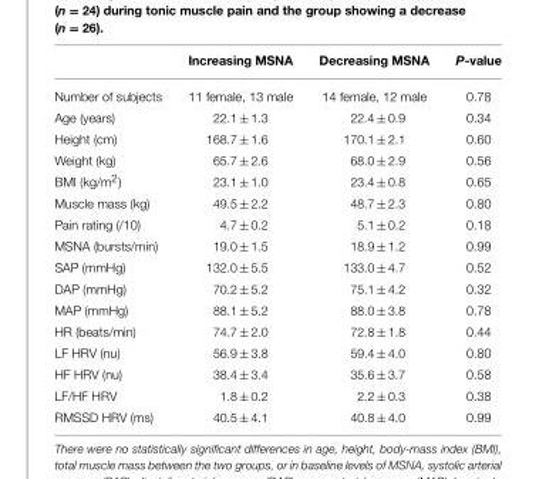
<table><thead><tr><td></td><td>Increasing MSNA</td><td>Decreasing MSNA</td><td>P-value</td></tr></thead><tbody><tr><td>Number of subjects</td><td>11 female± 13 male</td><td>14 female± 12 male</td><td>0.78</td></tr><tr><td>Age (years)</td><td>22.1 ± 1.3</td><td>22.4 ± 0.9</td><td>0.34</td></tr><tr><td>Height (cm)</td><td>168.7 ± 1.6</td><td>170.1 ± 2.1</td><td>0.60</td></tr><tr><td>Weight (kg)</td><td>65.7 ± 2.6</td><td>68.0 ± 2.9</td><td>0.56</td></tr><tr><td>BMI (kg/m<sup>2</sup>)</td><td>23.1 ± 1.0</td><td>23.4 ± 0.8</td><td>0.65</td></tr><tr><td>Muscle mass (kg)</td><td>49.5 ± 2.2</td><td>48.7 ± 2.3</td><td>0.80</td></tr><tr><td>Pain rating (/10)</td><td>4.7 ± 0.2</td><td>5.1 ± 0.2</td><td>0.18</td></tr><tr><td>MSNA (bursts/min)</td><td>19.0 ± 1.5</td><td>18.9 ± 1.2</td><td>0.99</td></tr><tr><td>SAP (mmHg)</td><td>132.0 ± 5.5</td><td>133.0 ± 4.7</td><td>0.52</td></tr><tr><td>DAP (mmHg)</td><td>70.2 ± 5.2</td><td>75.1 ± 4.2</td><td>0.32</td></tr><tr><td>MAP (mmHg)</td><td>88.1 ± 5.2</td><td>88.0 ± 3.8</td><td>0.78</td></tr><tr><td>HR (beats/min)</td><td>74.7 ± 2.0</td><td>72.8 ± 1.8</td><td>0.44</td></tr><tr><td>LF HRV (nu)</td><td>56.9 ± 3.8</td><td>59.4 ± 4.0</td><td>0.80</td></tr><tr><td>HF HRV (nu)</td><td>38.4 ± 3.4</td><td>35.6 ± 3.7</td><td>0.58</td></tr><tr><td>LF/HF HRV</td><td>1.8 ± 0.2</td><td>2.2 ± 0.3</td><td>0.38</td></tr><tr><td>RMSSD HRV (ms)</td><td>40.5 ± 4.1</td><td>40.8 ± 4.0</td><td>0.99</td></tr></tbody></table>